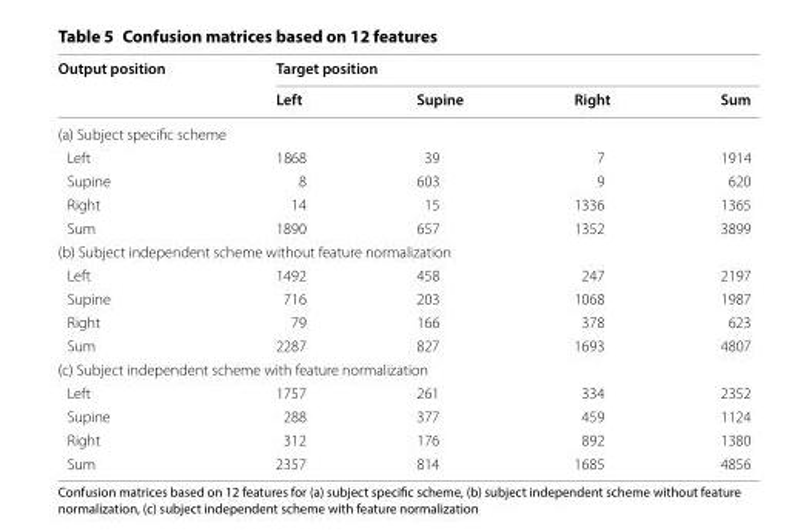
<table><thead><tr><td rowspan="2">Output position</td><td colspan="4">Target position</td></tr><tr><td>Left</td><td>Supine</td><td>Right</td><td>Sum</td></tr></thead><tbody><tr><td colspan="5">(a) Subject specific scheme</td></tr><tr><td>Left</td><td>1868</td><td>39</td><td>7</td><td>1914</td></tr><tr><td>Supine</td><td>8</td><td>603</td><td>9</td><td>620</td></tr><tr><td>Right</td><td>14</td><td>15</td><td>1336</td><td>1365</td></tr><tr><td>Sum</td><td>1890</td><td>657</td><td>1352</td><td>3899</td></tr><tr><td colspan="5">(b) Subject independent scheme without feature normalization</td></tr><tr><td>Left</td><td>1492</td><td>458</td><td>247</td><td>2197</td></tr><tr><td>Supine</td><td>716</td><td>203</td><td>1068</td><td>1987</td></tr><tr><td>Right</td><td>79</td><td>166</td><td>378</td><td>623</td></tr><tr><td>Sum</td><td>2287</td><td>827</td><td>1693</td><td>4807</td></tr><tr><td colspan="5">(c) Subject independent scheme with feature normalization</td></tr><tr><td>Left</td><td>1757</td><td>261</td><td>334</td><td>2352</td></tr><tr><td>Supine</td><td>288</td><td>377</td><td>459</td><td>1124</td></tr><tr><td>Right</td><td>312</td><td>176</td><td>892</td><td>1380</td></tr><tr><td>Sum</td><td>2357</td><td>814</td><td>1685</td><td>4856</td></tr></tbody></table>